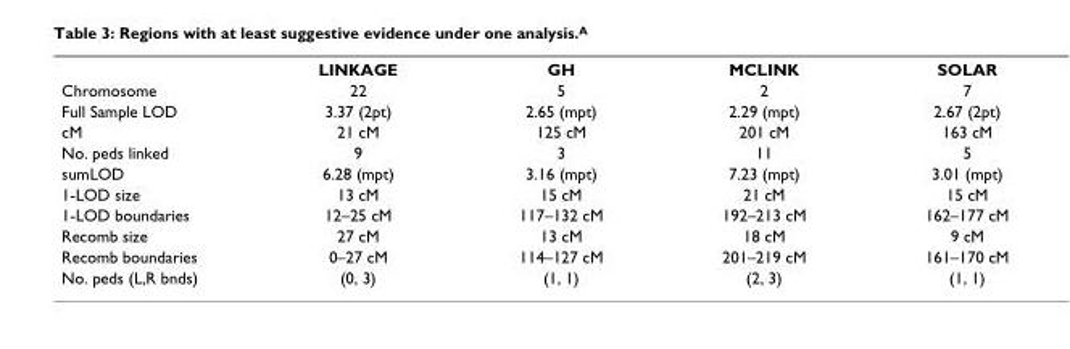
<table><thead><tr><td></td><td>LINKAGE</td><td>GH</td><td>MCLINK</td><td>SOLAR</td></tr></thead><tbody><tr><td>Chromosome</td><td>22</td><td>5</td><td>2</td><td>7</td></tr><tr><td>Full Sample LOD</td><td>3.37 (2pt)</td><td>2.65 (mpt)</td><td>2.29 (mpt)</td><td>2.67 (2pt)</td></tr><tr><td>cM</td><td>21 cM</td><td>125 cM</td><td>201 cM</td><td>163 cM</td></tr><tr><td>No. peds linked</td><td>9</td><td>3</td><td>11</td><td>5</td></tr><tr><td>sumLOD</td><td>6.28 (mpt)</td><td>3.16 (mpt)</td><td>7.23 (mpt)</td><td>3.01 (mpt)</td></tr><tr><td>1-LOD size</td><td>13 cM</td><td>15 cM</td><td>21 cM</td><td>15 cM</td></tr><tr><td>1-LOD boundaries</td><td>12–25 cM</td><td>117–132 cM</td><td>192–213 cM</td><td>162–177 cM</td></tr><tr><td>Recomb size</td><td>27 cM</td><td>13 cM</td><td>18 cM</td><td>9 cM</td></tr><tr><td>Recomb boundaries</td><td>0–27 cM</td><td>114–127 cM</td><td>201–219 cM</td><td>161–170 cM</td></tr><tr><td>No. peds (L,R bnds)</td><td>(0, 3)</td><td>(1, 1)</td><td>(2, 3)</td><td>(1, 1)</td></tr></tbody></table>